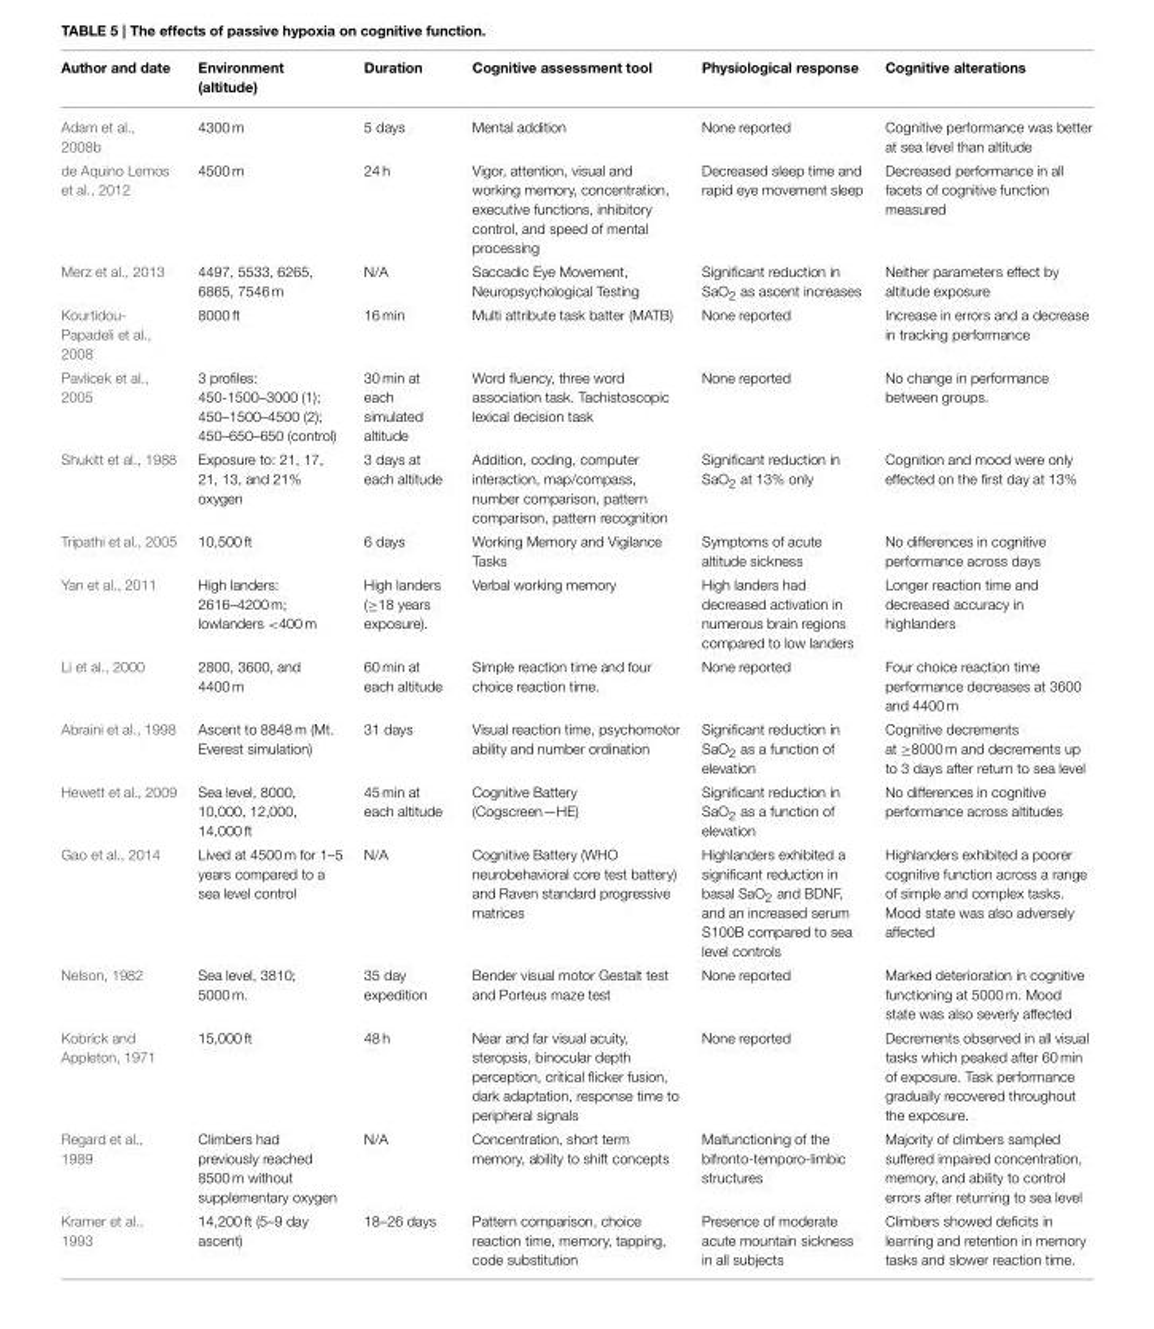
<table><thead><tr><td>Author and date</td><td>Environment (altitude)</td><td>Duration</td><td>Cognitive assessment tool</td><td>Physiological response</td><td>Cognitive alterations</td></tr></thead><tbody><tr><td>Adam et al., 2008b</td><td>4300 m</td><td>5 days</td><td>Mental addition</td><td>None reported</td><td>Cognitive performance was better at sea level than altitude</td></tr><tr><td>de Aquino Lemos et al., 2012</td><td>4500 m</td><td>24 h</td><td>Vigor, attention, visual and working memory, concentration, executive functions, inhibitory control, and speed of mental processing</td><td>Decreased sleep time and rapid eye movement sleep</td><td>Decreased performance in all facets of cognitive function measured</td></tr><tr><td>Merz et al., 2013</td><td>4497, 5533, 6265, 6865, 7546 m</td><td>N/A</td><td>Saccadic Eye Movement, Neuropsychological Testing</td><td>Significant reduction in SaO<sub>2</sub> as ascent increases</td><td>Neither parameters effect by altitude exposure</td></tr><tr><td>Kourtidou- Papadeli et al., 2008</td><td>8000 ft</td><td>16 min</td><td>Multi attribute task batter (MATB)</td><td>None reported</td><td>Increase in errors and a decrease in tracking performance</td></tr><tr><td>Pavlicek et al., 2005</td><td>3 profiles: 450-1500–3000 (1); 450–1500–4500 (2); 450–650–650 (control)</td><td>30 min at each simulated altitude</td><td>Word fluency, three word association task. Tachistoscopic lexical decision task</td><td>None reported</td><td>No change in performance between groups.</td></tr><tr><td>Shukitt et al., 1988</td><td>Exposure to: 21, 17, 21, 13, and 21% oxygen</td><td>3 days at each altitude</td><td>Addition, coding, computer interaction, map/compass, number comparison, pattern comparison, pattern recognition</td><td>Significant reduction in SaO<sub>2</sub> at 13% only</td><td>Cognition and mood were only effected on the first day at 13%</td></tr><tr><td>Tripathi et al., 2005</td><td>10,500 ft</td><td>6 days</td><td>Working Memory and Vigilance Tasks</td><td>Symptoms of acute altitude sickness</td><td>No differences in cognitive performance across days</td></tr><tr><td>Yan et al., 2011</td><td>High landers: 2616–4200 m; lowlanders &lt;400 m</td><td>High landers (≥18 years exposure).</td><td>Verbal working memory</td><td>High landers had decreased activation in numerous brain regions compared to low landers</td><td>Longer reaction time and decreased accuracy in highlanders</td></tr><tr><td>Li et al., 2000</td><td>2800, 3600, and 4400 m</td><td>60 min at each altitude</td><td>Simple reaction time and four choice reaction time.</td><td>None reported</td><td>Four choice reaction time performance decreases at 3600 and 4400 m</td></tr><tr><td>Abraini et al., 1998</td><td>Ascent to 8848 m (Mt. Everest simulation)</td><td>31 days</td><td>Visual reaction time, psychomotor ability and number ordination</td><td>Significant reduction in SaO<sub>2</sub> as a function of elevation</td><td>Cognitive decrements at ≥8000 m and decrements up to 3 days after return to sea level</td></tr><tr><td>Hewett et al., 2009</td><td>Sea level, 8000, 10,000, 12,000, 14,000 ft</td><td>45 min at each altitude</td><td>Cognitive Battery (Cogscreen—HE)</td><td>Significant reduction in SaO<sub>2</sub> as a function of elevation</td><td>No differences in cognitive performance across altitudes</td></tr><tr><td>Gao et al., 2014</td><td>Lived at 4500 m for 1–5 years compared to a sea level control</td><td>N/A</td><td>Cognitive Battery (WHO neurobehavioral core test battery) and Raven standard progressive matrices</td><td>Highlanders exhibited a significant reduction in basal SaO<sub>2</sub> and BDNF, and an increased serum S100B compared to sea level controls</td><td>Highlanders exhibited a poorer cognitive function across a range of simple and complex tasks. Mood state was also adversely affected</td></tr><tr><td>Nelson, 1982</td><td>Sea level, 3810; 5000 m.</td><td>35 day expedition</td><td>Bender visual motor Gestalt test and Porteus maze test</td><td>None reported</td><td>Marked deterioration in cognitive functioning at 5000 m. Mood state was also severly affected</td></tr><tr><td>Kobrick and Appleton, 1971</td><td>15,000 ft</td><td>48 h</td><td>Near and far visual acuity, steropsis, binocular depth perception, critical flicker fusion, dark adaptation, response time to peripheral signals</td><td>None reported</td><td>Decrements observed in all visual tasks which peaked after 60 min of exposure. Task performance gradually recovered throughout the exposure.</td></tr><tr><td>Regard et al., 1989</td><td>Climbers had previously reached 8500 m without supplementary oxygen</td><td>N/A</td><td>Concentration, short term memory, ability to shift concepts</td><td>Malfunctioning of the bifronto-temporo-limbic structures</td><td>Majority of climbers sampled suffered impaired concentration, memory, and ability to control errors after returning to sea level</td></tr><tr><td>Kramer et al., 1993</td><td>14,200 ft (5–9 day ascent)</td><td>18–26 days</td><td>Pattern comparison, choice reaction time, memory, tapping, code substitution</td><td>Presence of moderate acute mountain sickness in all subjects</td><td>Climbers showed deficits in learning and retention in memory tasks and slower reaction time.</td></tr></tbody></table>